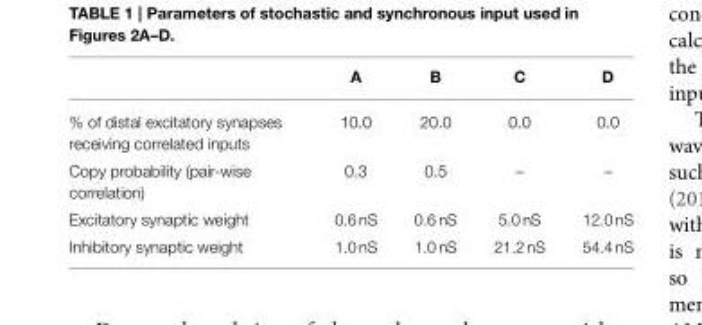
<table><thead><tr><td></td><td>A</td><td>B</td><td>C</td><td>D</td></tr></thead><tbody><tr><td>% of distal excitatory synapses receiving correlated inputs</td><td>10.0</td><td>20.0</td><td>0.0</td><td>0.0</td></tr><tr><td>Copy probability (pair-wise correlation)</td><td>0.3</td><td>0.5</td><td>–</td><td>–</td></tr><tr><td>Excitatory synaptic weight</td><td>0.6 nS</td><td>0.6 nS</td><td>5.0 nS</td><td>12.0 nS</td></tr><tr><td>Inhibitory synaptic weight</td><td>1.0 nS</td><td>1.0 nS</td><td>21.2 nS</td><td>54.4 nS</td></tr></tbody></table>